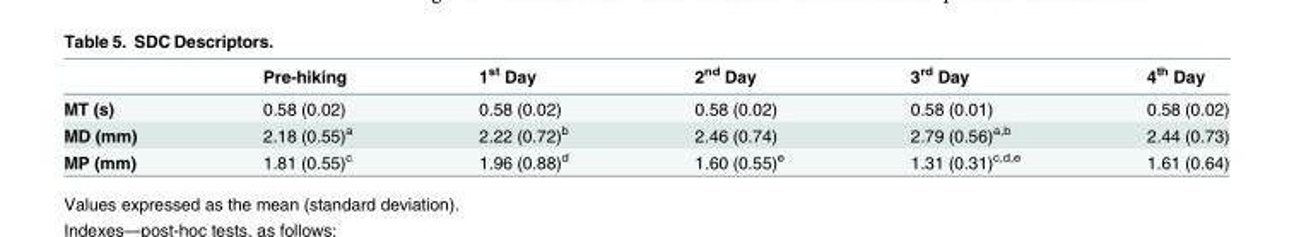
<table><thead><tr><td></td><td>Pre-hiking</td><td>1<sup>st</sup> Day</td><td>2<sup>nd</sup> Day</td><td>3<sup>rd</sup> Day</td><td>4<sup>th</sup> Day</td></tr></thead><tbody><tr><td>MT (s)</td><td>0.58 (0.02)</td><td>0.58 (0.02)</td><td>0.58 (0.02)</td><td>0.58 (0.01)</td><td>0.58 (0.02)</td></tr><tr><td>MD (mm)</td><td>2.18 (0.55)<sup>a</sup></td><td>2.22 (0.72)<sup>b</sup></td><td>2.46 (0.74)</td><td>2.79 (0.56)<sup>a,b</sup></td><td>2.44 (0.73)</td></tr><tr><td>MP (mm)</td><td>1.81 (0.55)<sup>c</sup></td><td>1.96 (0.88)<sup>d</sup></td><td>1.60 (0.55)<sup>e</sup></td><td>1.31 (0.31)<sup>c,d,e</sup></td><td>1.61 (0.64)</td></tr></tbody></table>